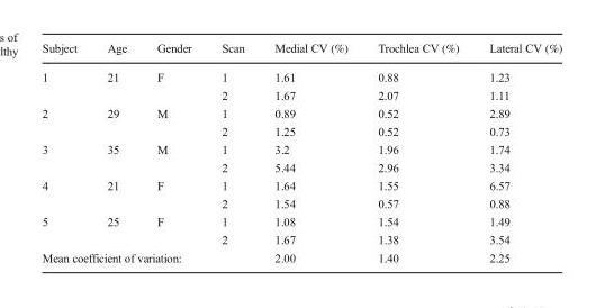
<table><thead><tr><td>Subject</td><td>Age</td><td>Gender</td><td>Scan</td><td>Medial CV (%)</td><td>Trochlea CV (%)</td><td>Lateral CV (%)</td></tr></thead><tbody><tr><td rowspan="2">1</td><td rowspan="2">21</td><td rowspan="2">F</td><td>1</td><td>1.61</td><td>0.88</td><td>1.23</td></tr><tr><td>2</td><td>1.67</td><td>2.07</td><td>1.11</td></tr><tr><td rowspan="2">2</td><td rowspan="2">29</td><td rowspan="2">M</td><td>1</td><td>0.89</td><td>0.52</td><td>2.89</td></tr><tr><td>2</td><td>1.25</td><td>0.52</td><td>0.73</td></tr><tr><td rowspan="2">3</td><td rowspan="2">35</td><td rowspan="2">M</td><td>1</td><td>3.2</td><td>1.96</td><td>1.74</td></tr><tr><td>2</td><td>5.44</td><td>2.96</td><td>3.34</td></tr><tr><td rowspan="2">4</td><td rowspan="2">21</td><td rowspan="2">F</td><td>1</td><td>1.64</td><td>1.55</td><td>6.57</td></tr><tr><td>2</td><td>1.54</td><td>0.57</td><td>0.88</td></tr><tr><td rowspan="2">5</td><td rowspan="2">25</td><td rowspan="2">F</td><td>1</td><td>1.08</td><td>1.54</td><td>1.49</td></tr><tr><td>2</td><td>1.67</td><td>1.38</td><td>3.54</td></tr><tr><td colspan="4">Mean coefficient of variation:</td><td>2.00</td><td>1.40</td><td>2.25</td></tr></tbody></table>